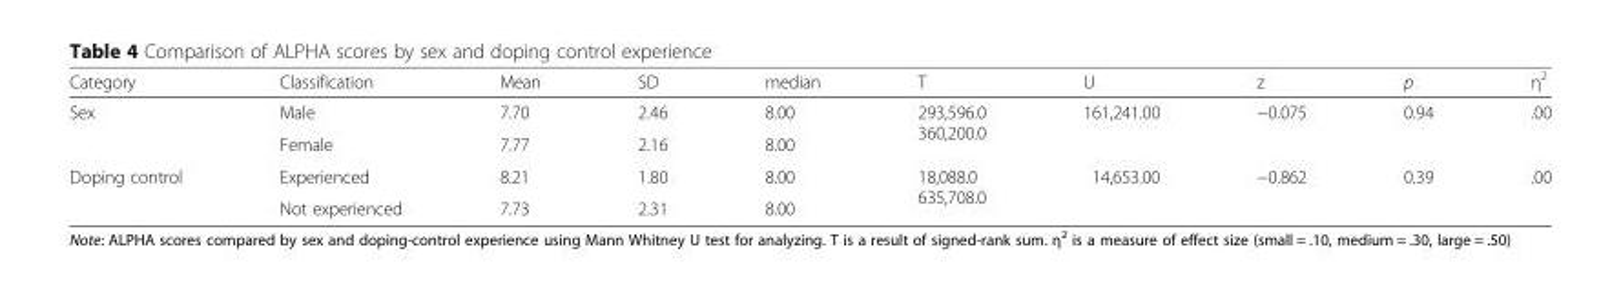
<table><thead><tr><td>Category</td><td>Classification</td><td>Mean</td><td>SD</td><td>median</td><td>T</td><td>U</td><td>z</td><td>p</td><td>η<sup>2</sup></td></tr></thead><tbody><tr><td rowspan="2">Sex</td><td>Male</td><td>7.70</td><td>2.46</td><td>8.00</td><td rowspan="2">293,596.0 360,200.0</td><td rowspan="2">161,241.00</td><td rowspan="2">−0.075</td><td rowspan="2">0.94</td><td rowspan="2">.00</td></tr><tr><td>Female</td><td>7.77</td><td>2.16</td><td>8.00</td></tr><tr><td rowspan="2">Doping control</td><td>Experienced</td><td>8.21</td><td>1.80</td><td>8.00</td><td rowspan="2">18,088.0 635,708.0</td><td rowspan="2">14,653.00</td><td rowspan="2">−0.862</td><td rowspan="2">0.39</td><td rowspan="2">.00</td></tr><tr><td>Not experienced</td><td>7.73</td><td>2.31</td><td>8.00</td></tr></tbody></table>